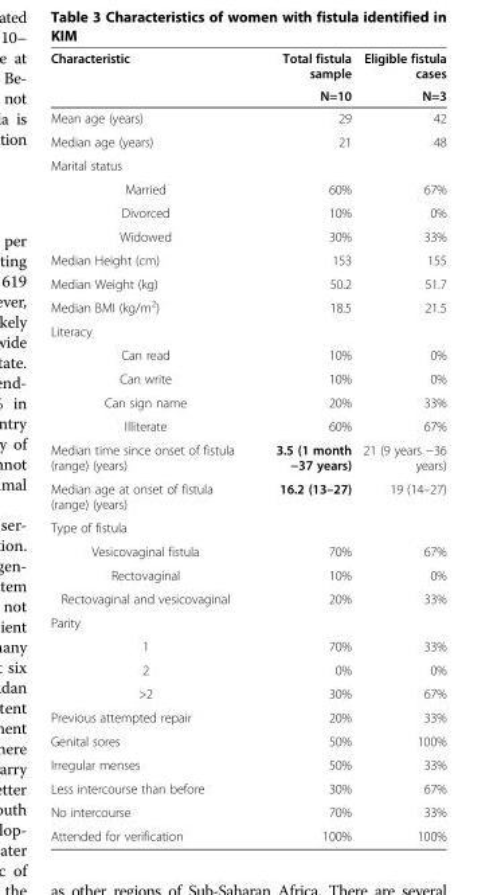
<table><thead><tr><td rowspan="2">Characteristic</td><td rowspan="2">Total fistula sample N=10</td><td rowspan="2">Eligible fistula cases N=3</td></tr><tr></tr></thead><tbody><tr><td>Mean age (years)</td><td>29</td><td>42</td></tr><tr><td>Median age (years)</td><td>21</td><td>48</td></tr><tr><td colspan="3">Marital status</td></tr><tr><td>Married</td><td>60%</td><td>67%</td></tr><tr><td>Divorced</td><td>10%</td><td>0%</td></tr><tr><td>Widowed</td><td>30%</td><td>33%</td></tr><tr><td>Median Height (cm)</td><td>153</td><td>155</td></tr><tr><td>Median Weight (kg)</td><td>50.2</td><td>51.7</td></tr><tr><td>Median BMI (kg/m<sup>2</sup>)</td><td>18.5</td><td>21.5</td></tr><tr><td colspan="3">Literacy</td></tr><tr><td>Can read</td><td>10%</td><td>0%</td></tr><tr><td>Can write</td><td>10%</td><td>0%</td></tr><tr><td>Can sign name</td><td>20%</td><td>33%</td></tr><tr><td>Illiterate</td><td>60%</td><td>67%</td></tr><tr><td>Median time since onset of fistula (range) (years)</td><td>3.5 (1 month −37 years)</td><td>21 (9 years −36 years)</td></tr><tr><td>Median age at onset of fistula (range) (years)</td><td>16.2 (13–27)</td><td>19 (14–27)</td></tr><tr><td colspan="3">Type of fistula</td></tr><tr><td>Vesicovaginal fistula</td><td>70%</td><td>67%</td></tr><tr><td>Rectovaginal</td><td>10%</td><td>0%</td></tr><tr><td>Rectovaginal and vesicovaginal</td><td>20%</td><td>33%</td></tr><tr><td colspan="3">Parity</td></tr><tr><td>1</td><td>70%</td><td>33%</td></tr><tr><td>2</td><td>0%</td><td>0%</td></tr><tr><td>&gt;2</td><td>30%</td><td>67%</td></tr><tr><td>Previous attempted repair</td><td>20%</td><td>33%</td></tr><tr><td>Genital sores</td><td>50%</td><td>100%</td></tr><tr><td>Irregular menses</td><td>50%</td><td>33%</td></tr><tr><td>Less intercourse than before</td><td>30%</td><td>67%</td></tr><tr><td>No intercourse</td><td>70%</td><td>33%</td></tr><tr><td>Attended for verification</td><td>100%</td><td>100%</td></tr></tbody></table>